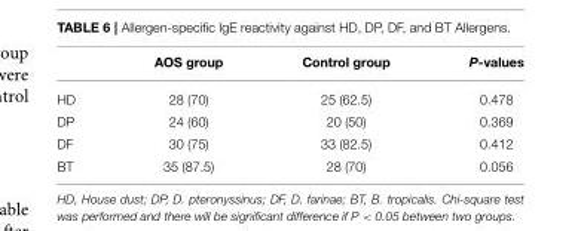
<table><thead><tr><td></td><td>AOS group</td><td>Control group</td><td>P-values</td></tr></thead><tbody><tr><td>HD</td><td>28 (70)</td><td>25 (62.5)</td><td>0.478</td></tr><tr><td>DP</td><td>24 (60)</td><td>20 (50)</td><td>0.369</td></tr><tr><td>DF</td><td>30 (75)</td><td>33 (82.5)</td><td>0.412</td></tr><tr><td>BT</td><td>35 (87.5)</td><td>28 (70)</td><td>0.056</td></tr></tbody></table>